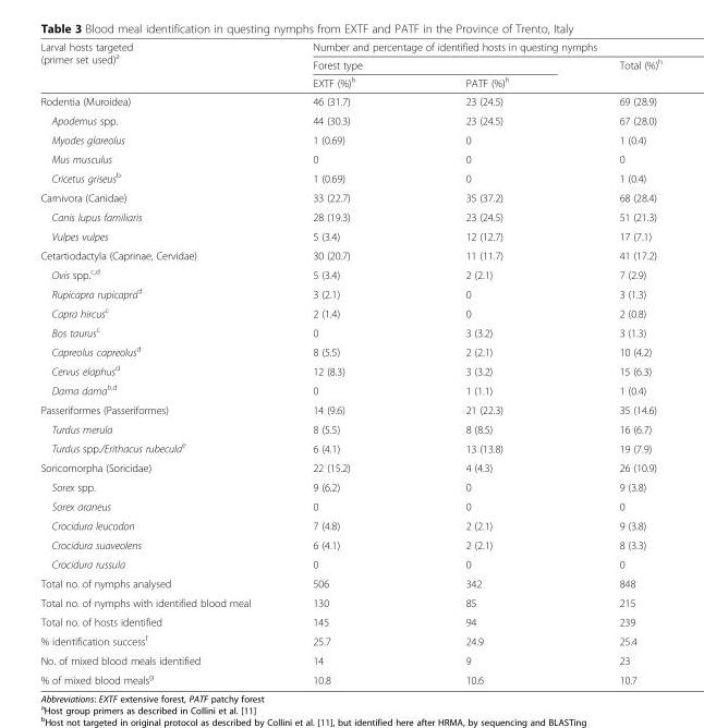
<table><thead><tr><td rowspan="3">Larval hosts targeted (primer set used)<sup>a</sup></td><td colspan="3">Number and percentage of identified hosts in questing nymphs</td></tr><tr><td colspan="2">Forest type</td><td rowspan="2">Total (%)<sup>h</sup></td></tr><tr><td>EXTF (%)<sup>h</sup></td><td>PATF (%)<sup>h</sup></td></tr></thead><tbody><tr><td>Rodentia (Muroidea)</td><td>46 (31.7)</td><td>23 (24.5)</td><td>69 (28.9)</td></tr><tr><td>Apodemus spp.</td><td>44 (30.3)</td><td>23 (24.5)</td><td>67 (28.0)</td></tr><tr><td>Myodes glareolus</td><td>1 (0.69)</td><td>0</td><td>1 (0.4)</td></tr><tr><td>Mus musculus</td><td>0</td><td>0</td><td>0</td></tr><tr><td>Cricetus griseus<sup>b</sup></td><td>1 (0.69)</td><td>0</td><td>1 (0.4)</td></tr><tr><td>Carnivora (Canidae)</td><td>33 (22.7)</td><td>35 (37.2)</td><td>68 (28.4)</td></tr><tr><td>Canis lupus familiaris</td><td>28 (19.3)</td><td>23 (24.5)</td><td>51 (21.3)</td></tr><tr><td>Vulpes vulpes</td><td>5 (3.4)</td><td>12 (12.7)</td><td>17 (7.1)</td></tr><tr><td>Cetartiodactyla (Caprinae, Cervidae)</td><td>30 (20.7)</td><td>11 (11.7)</td><td>41 (17.2)</td></tr><tr><td>Ovis spp.<sup>c,d</sup></td><td>5 (3.4)</td><td>2 (2.1)</td><td>7 (2.9)</td></tr><tr><td>Rupicapra rupicapra<sup>d</sup></td><td>3 (2.1)</td><td>0</td><td>3 (1.3)</td></tr><tr><td>Capra hircus<sup>c</sup></td><td>2 (1.4)</td><td>0</td><td>2 (0.8)</td></tr><tr><td>Bos taurus<sup>c</sup></td><td>0</td><td>3 (3.2)</td><td>3 (1.3)</td></tr><tr><td>Capreolus capreolus<sup>d</sup></td><td>8 (5.5)</td><td>2 (2.1)</td><td>10 (4.2)</td></tr><tr><td>Cervus elaphus<sup>d</sup></td><td>12 (8.3)</td><td>3 (3.2)</td><td>15 (6.3)</td></tr><tr><td>Dama dama<sup>b,d</sup></td><td>0</td><td>1 (1.1)</td><td>1 (0.4)</td></tr><tr><td>Passeriformes (Passeriformes)</td><td>14 (9.6)</td><td>21 (22.3)</td><td>35 (14.6)</td></tr><tr><td>Turdus merula</td><td>8 (5.5)</td><td>8 (8.5)</td><td>16 (6.7)</td></tr><tr><td>Turdus spp./Erithacus rubecula<sup>e</sup></td><td>6 (4.1)</td><td>13 (13.8)</td><td>19 (7.9)</td></tr><tr><td>Soricomorpha (Soricidae)</td><td>22 (15.2)</td><td>4 (4.3)</td><td>26 (10.9)</td></tr><tr><td>Sorex spp.</td><td>9 (6.2)</td><td>0</td><td>9 (3.8)</td></tr><tr><td>Sorex araneus</td><td>0</td><td>0</td><td>0</td></tr><tr><td>Crocidura leucodon</td><td>7 (4.8)</td><td>2 (2.1)</td><td>9 (3.8)</td></tr><tr><td>Crocidura suaveolens</td><td>6 (4.1)</td><td>2 (2.1)</td><td>8 (3.3)</td></tr><tr><td>Crocidura russula</td><td>0</td><td>0</td><td>0</td></tr><tr><td>Total no. of nymphs analysed</td><td>506</td><td>342</td><td>848</td></tr><tr><td>Total no. of nymphs with identified blood meal</td><td>130</td><td>85</td><td>215</td></tr><tr><td>Total no. of hosts identified</td><td>145</td><td>94</td><td>239</td></tr><tr><td>% identification success<sup>f</sup></td><td>25.7</td><td>24.9</td><td>25.4</td></tr><tr><td>No. of mixed blood meals identified</td><td>14</td><td>9</td><td>23</td></tr><tr><td>% of mixed blood meals<sup>g</sup></td><td>10.8</td><td>10.6</td><td>10.7</td></tr></tbody></table>